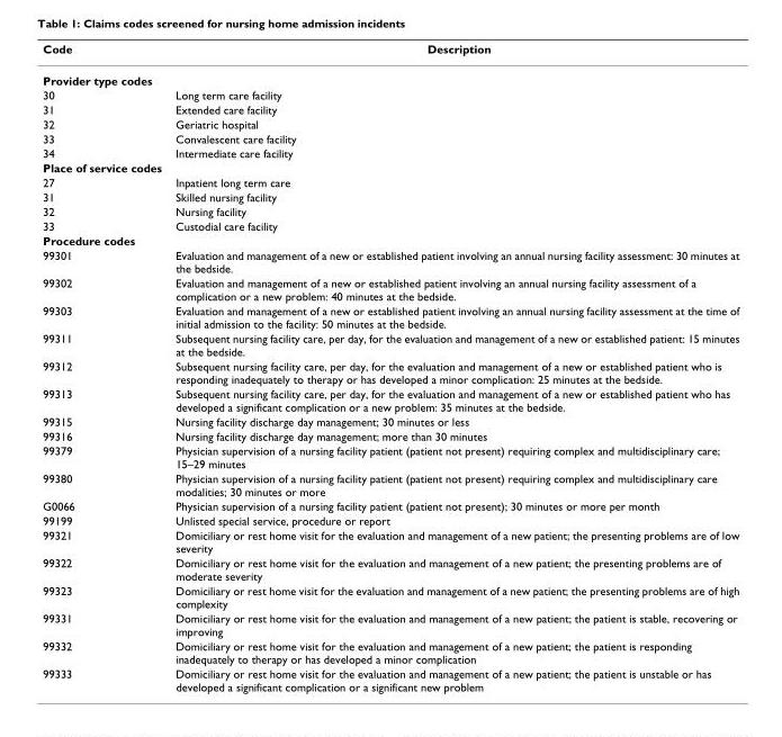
<table><thead><tr><td>Code</td><td>Description</td></tr></thead><tbody><tr><td colspan="2">Provider type codes</td></tr><tr><td>30</td><td>Long term care facility</td></tr><tr><td>31</td><td>Extended care facility</td></tr><tr><td>32</td><td>Geriatric hospital</td></tr><tr><td>33</td><td>Convalescent care facility</td></tr><tr><td>34</td><td>Intermediate care facility</td></tr><tr><td colspan="2">Place of service codes</td></tr><tr><td>27</td><td>Inpatient long term care</td></tr><tr><td>31</td><td>Skilled nursing facility</td></tr><tr><td>32</td><td>Nursing facility</td></tr><tr><td>33</td><td>Custodial care facility</td></tr><tr><td colspan="2">Procedure codes</td></tr><tr><td>99301</td><td>Evaluation and management of a new or established patient involving an annual nursing facility assessment: 30 minutes at the bedside.</td></tr><tr><td>99302</td><td>Evaluation and management of a new or established patient involving an annual nursing facility assessment of a complication or a new problem: 40 minutes at the bedside.</td></tr><tr><td>99303</td><td>Evaluation and management of a new or established patient involving an annual nursing facility assessment at the time of initial admission to the facility: 50 minutes at the bedside.</td></tr><tr><td>99311</td><td>Subsequent nursing facility care, per day, for the evaluation and management of a new or established patient: 15 minutes at the bedside.</td></tr><tr><td>99312</td><td>Subsequent nursing facility care, per day, for the evaluation and management of a new or established patient who is responding inadequately to therapy or has developed a minor complication: 25 minutes at the bedside.</td></tr><tr><td>99313</td><td>Subsequent nursing facility care, per day, for the evaluation and management of a new or established patient who has developed a significant complication or a new problem: 35 minutes at the bedside.</td></tr><tr><td>99315</td><td>Nursing facility discharge day management; 30 minutes or less</td></tr><tr><td>99316</td><td>Nursing facility discharge day management; more than 30 minutes</td></tr><tr><td>99379</td><td>Physician supervision of a nursing facility patient (patient not present) requiring complex and multidisciplinary care; 15–29 minutes</td></tr><tr><td>99380</td><td>Physician supervision of a nursing facility patient (patient not present) requiring complex and multidisciplinary care modalities; 30 minutes or more</td></tr><tr><td>G0066</td><td>Physician supervision of a nursing facility patient (patient not present); 30 minutes or more per month</td></tr><tr><td>99199</td><td>Unlisted special service, procedure or report</td></tr><tr><td>99321</td><td>Domiciliary or rest home visit for the evaluation and management of a new patient; the presenting problems are of low severity</td></tr><tr><td>99322</td><td>Domiciliary or rest home visit for the evaluation and management of a new patient; the presenting problems are of moderate severity</td></tr><tr><td>99323</td><td>Domiciliary or rest home visit for the evaluation and management of a new patient; the presenting problems are of high complexity</td></tr><tr><td>99331</td><td>Domiciliary or rest home visit for the evaluation and management of a new patient; the patient is stable, recovering or improving</td></tr><tr><td>99332</td><td>Domiciliary or rest home visit for the evaluation and management of a new patient; the patient is responding inadequately to therapy or has developed a minor complication</td></tr><tr><td>99333</td><td>Domiciliary or rest home visit for the evaluation and management of a new patient; the patient is unstable or has developed a significant complication or a significant new problem</td></tr></tbody></table>